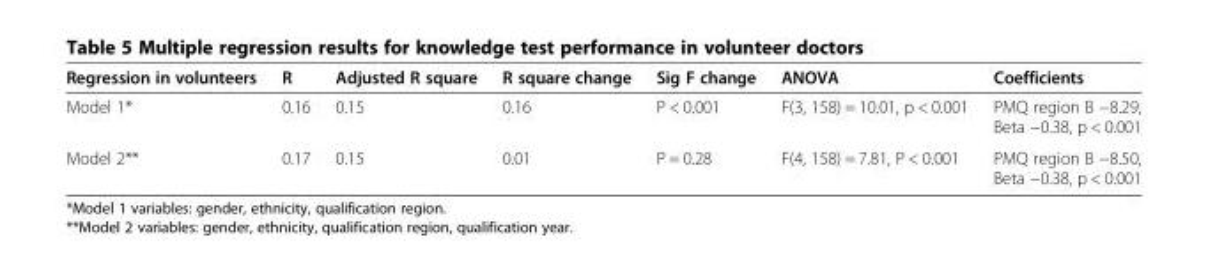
<table><thead><tr><td>Regression in volunteers</td><td>R</td><td>Adjusted R square</td><td>R square change</td><td>Sig F change</td><td>ANOVA</td><td>Coefficients</td></tr></thead><tbody><tr><td>Model 1*</td><td>0.16</td><td>0.15</td><td>0.16</td><td>P &lt; 0.001</td><td>F(3, 158) = 10.01, p &lt; 0.001</td><td>PMQ region B −8.29, Beta −0.38, p &lt; 0.001</td></tr><tr><td>Model 2**</td><td>0.17</td><td>0.15</td><td>0.01</td><td>P = 0.28</td><td>F(4, 158) = 7.81, P &lt; 0.001</td><td>PMQ region B −8.50, Beta −0.38, p &lt; 0.001</td></tr></tbody></table>